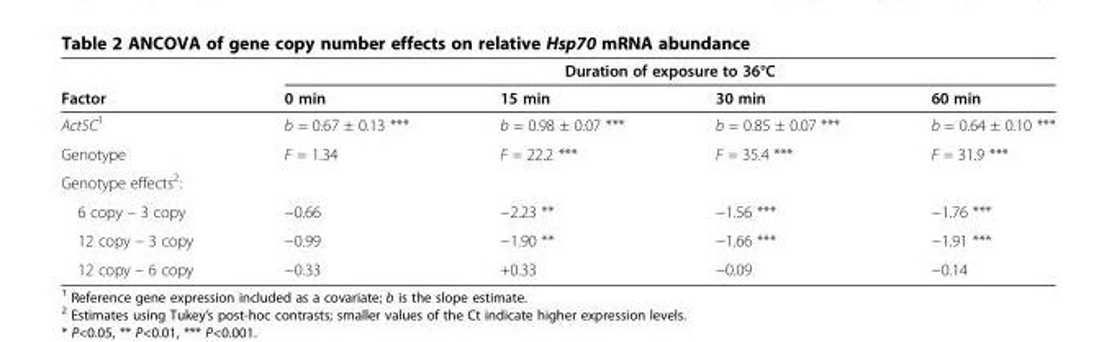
<table><thead><tr><td rowspan="2">Factor</td><td colspan="4">Duration of exposure to 36°C</td></tr><tr><td>0 min</td><td>15 min</td><td>30 min</td><td>60 min</td></tr></thead><tbody><tr><td>Act5C<sup>1</sup></td><td>b = 0.67 ± 0.13 ***</td><td>b = 0.98 ± 0.07 ***</td><td>b = 0.85 ± 0.07 ***</td><td>b = 0.64 ± 0.10 ***</td></tr><tr><td>Genotype</td><td>F = 1.34</td><td>F = 22.2 ***</td><td>F = 35.4 ***</td><td>F = 31.9 ***</td></tr><tr><td colspan="5">Genotype effects<sup>2</sup>:</td></tr><tr><td>6 copy – 3 copy</td><td>−0.66</td><td>−2.23 **</td><td>−1.56 ***</td><td>−1.76 ***</td></tr><tr><td>12 copy – 3 copy</td><td>−0.99</td><td>−1.90 **</td><td>−1.66 ***</td><td>−1.91 ***</td></tr><tr><td>12 copy – 6 copy</td><td>−0.33</td><td>+0.33</td><td>−0.09</td><td>−0.14</td></tr></tbody></table>